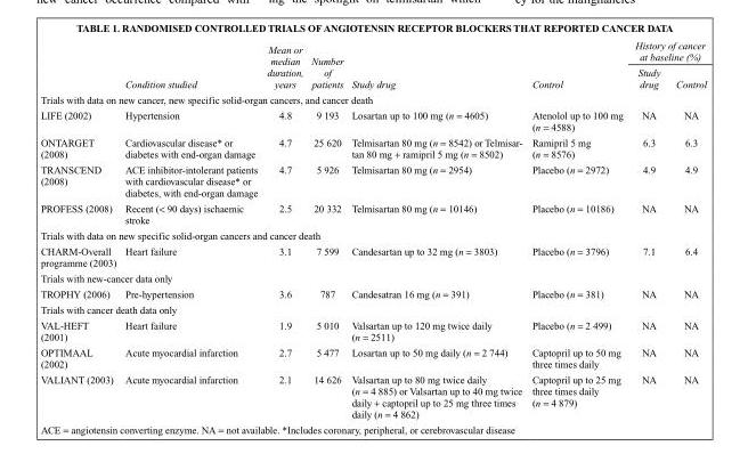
<table><thead><tr><td rowspan="2"></td><td rowspan="2">Condition studied</td><td rowspan="2">Mean or median duration, years</td><td rowspan="2">Number of patients</td><td rowspan="2">Study drug</td><td rowspan="2">Control</td><td colspan="2">History of cancer at baseline (%)</td></tr><tr><td>Study drug</td><td>Control</td></tr></thead><tbody><tr><td colspan="8">Trials with data on new cancer, new specific solid-organ cancers, and cancer death</td></tr><tr><td>LIFE (2002)</td><td>Hypertension</td><td>4.8</td><td>9 193</td><td>Losartan up to 100 mg (n = 4605)</td><td>Atenolol up to 100 mg (n = 4588)</td><td>NA</td><td>NA</td></tr><tr><td>ONTARGET (2008)</td><td>Cardiovascular disease* or diabetes with end-organ damage</td><td>4.7</td><td>25 620</td><td>Telmisartan 80 mg (n = 8542) or Telmisar- tan 80 mg + ramipril 5 mg (n = 8502)</td><td>Ramipril 5 mg (n = 8576)</td><td>6.3</td><td>6.3</td></tr><tr><td>TRANSCEND (2008)</td><td>ACE inhibitor-intolerant patients with cardiovascular disease* or diabetes, with end-organ damage</td><td>4.7</td><td>5 926</td><td>Telmisartan 80 mg (n = 2954)</td><td>Placebo (n = 2972)</td><td>4.9</td><td>4.9</td></tr><tr><td>PROFESS (2008)</td><td>Recent (&lt; 90 days) ischaemic stroke</td><td>2.5</td><td>20 332</td><td>Telmisartan 80 mg (n = 10146)</td><td>Placebo (n = 10186)</td><td>NA</td><td>NA</td></tr><tr><td colspan="8">Trials with data on new specific solid-organ cancers and cancer death</td></tr><tr><td>CHARM-Overall programme (2003)</td><td>Heart failure</td><td>3.1</td><td>7 599</td><td>Candesartan up to 32 mg (n = 3803)</td><td>Placebo (n = 3796)</td><td>7.1</td><td>6.4</td></tr><tr><td colspan="8">Trials with new-cancer data only</td></tr><tr><td>TROPHY (2006)</td><td>Pre-hypertension</td><td>3.6</td><td>787</td><td>Candesatran 16 mg (n = 391)</td><td>Placebo (n = 381)</td><td>NA</td><td>NA</td></tr><tr><td colspan="8">Trials with cancer death data only</td></tr><tr><td>VAL-HEFT (2001)</td><td>Heart failure</td><td>1.9</td><td>5 010</td><td>Valsartan up to 120 mg twice daily (n = 2511)</td><td>Placebo (n = 2 499)</td><td>NA</td><td>NA</td></tr><tr><td>OPTIMAAL (2002)</td><td>Acute myocardial infarction</td><td>2.7</td><td>5 477</td><td>Losartan up to 50 mg daily (n = 2 744)</td><td>Captopril up to 50 mg three times daily</td><td>NA</td><td>NA</td></tr><tr><td>VALIANT (2003)</td><td>Acute myocardial infarction</td><td>2.1</td><td>14 626</td><td>Valsartan up to 80 mg twice daily (n = 4 885) or Valsartan up to 40 mg twice daily + captopril up to 25 mg three times daily (n = 4 862)</td><td>Captopril up to 25 mg three times daily (n = 4 879)</td><td>NA</td><td>NA</td></tr></tbody></table>